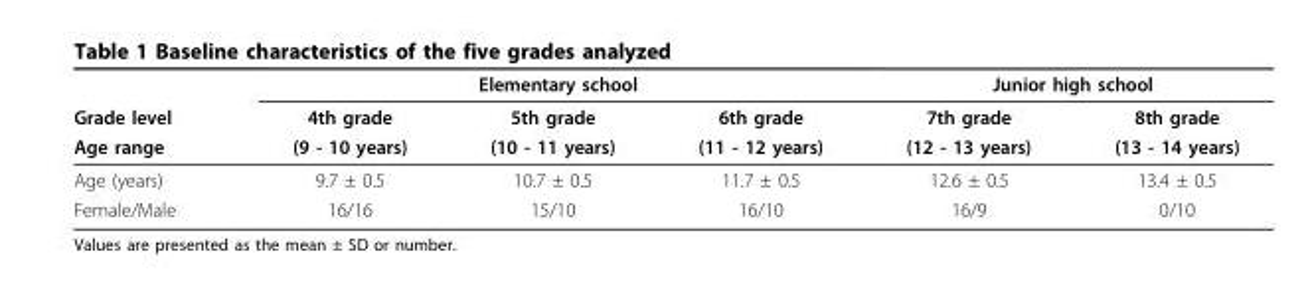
<table><thead><tr><td rowspan="3">Grade level Age range</td><td colspan="3">Elementary school</td><td colspan="2">Junior high school</td></tr><tr><td rowspan="2">4th grade (9 - 10 years)</td><td rowspan="2">5th grade (10 - 11 years)</td><td rowspan="2">6th grade (11 - 12 years)</td><td rowspan="2">7th grade (12 - 13 years)</td><td rowspan="2">8th grade (13 - 14 years)</td></tr><tr></tr></thead><tbody><tr><td>Age (years)</td><td>9.7 ± 0.5</td><td>10.7 ± 0.5</td><td>11.7 ± 0.5</td><td>12.6 ± 0.5</td><td>13.4 ± 0.5</td></tr><tr><td>Female/Male</td><td>16/16</td><td>15/10</td><td>16/10</td><td>16/9</td><td>0/10</td></tr></tbody></table>